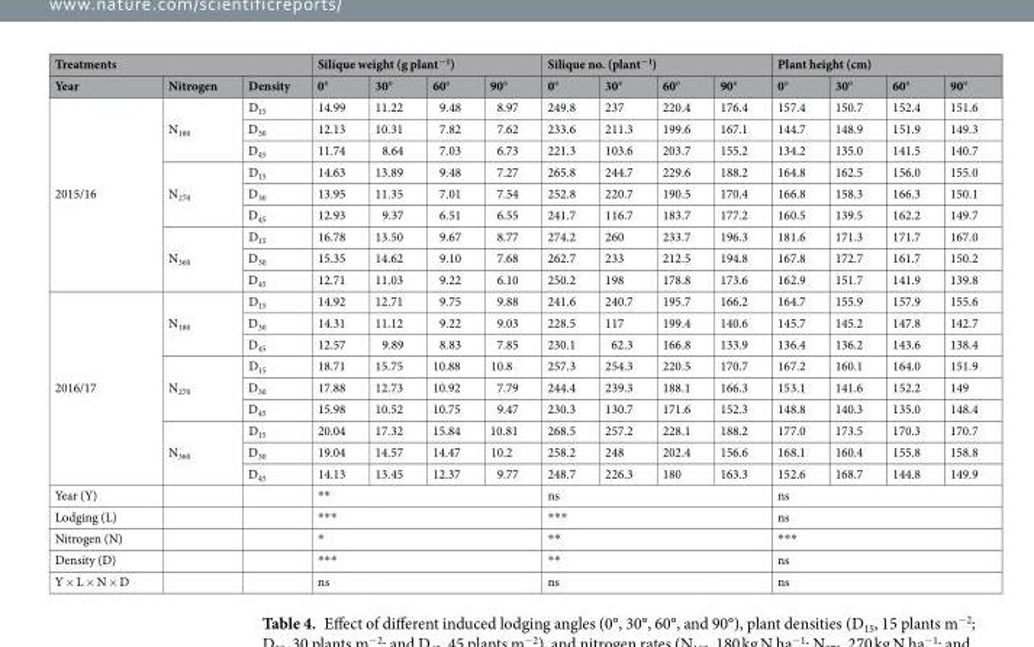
<table><thead><tr><td colspan="3">Treatments</td><td colspan="4">Silique weight (g plant<sup>−1</sup>)</td><td colspan="4">Silique no. (plant<sup>−1</sup>)</td><td colspan="4">Plant height (cm)</td></tr><tr><td>Year</td><td>Nitrogen</td><td>Density</td><td>0°</td><td>30°</td><td>60°</td><td>90°</td><td>0°</td><td>30°</td><td>60°</td><td>90°</td><td>0°</td><td>30°</td><td>60°</td><td>90°</td></tr></thead><tbody><tr><td rowspan="9">2015/16</td><td rowspan="3">N<sub>180</sub></td><td>D<sub>15</sub></td><td>14.99</td><td>11.22</td><td>9.48</td><td>8.97</td><td>249.8</td><td>237</td><td>220.4</td><td>176.4</td><td>157.4</td><td>150.7</td><td>152.4</td><td>151.6</td></tr><tr><td>D<sub>30</sub></td><td>12.13</td><td>10.31</td><td>7.82</td><td>7.62</td><td>233.6</td><td>211.3</td><td>199.6</td><td>167.1</td><td>144.7</td><td>148.9</td><td>151.9</td><td>149.3</td></tr><tr><td>D<sub>45</sub></td><td>11.74</td><td>8.64</td><td>7.03</td><td>6.73</td><td>221.3</td><td>103.6</td><td>203.7</td><td>155.2</td><td>134.2</td><td>135.0</td><td>141.5</td><td>140.7</td></tr><tr><td rowspan="3">N<sub>270</sub></td><td>D<sub>15</sub></td><td>14.63</td><td>13.89</td><td>9.48</td><td>7.27</td><td>265.8</td><td>244.7</td><td>229.6</td><td>188.2</td><td>164.8</td><td>162.5</td><td>156.0</td><td>155.0</td></tr><tr><td>D<sub>30</sub></td><td>13.95</td><td>11.35</td><td>7.01</td><td>7.54</td><td>252.8</td><td>220.7</td><td>190.5</td><td>170.4</td><td>166.8</td><td>158.3</td><td>166.3</td><td>150.1</td></tr><tr><td>D<sub>45</sub></td><td>12.93</td><td>9.37</td><td>6.51</td><td>6.55</td><td>241.7</td><td>116.7</td><td>183.7</td><td>177.2</td><td>160.5</td><td>139.5</td><td>162.2</td><td>149.7</td></tr><tr><td rowspan="3">N<sub>360</sub></td><td>D<sub>15</sub></td><td>16.78</td><td>13.50</td><td>9.67</td><td>8.77</td><td>274.2</td><td>260</td><td>233.7</td><td>196.3</td><td>181.6</td><td>171.3</td><td>171.7</td><td>167.0</td></tr><tr><td>D<sub>30</sub></td><td>15.35</td><td>14.62</td><td>9.10</td><td>7.68</td><td>262.7</td><td>233</td><td>212.5</td><td>194.8</td><td>167.8</td><td>172.7</td><td>161.7</td><td>150.2</td></tr><tr><td>D<sub>45</sub></td><td>12.71</td><td>11.03</td><td>9.22</td><td>6.10</td><td>250.2</td><td>198</td><td>178.8</td><td>173.6</td><td>162.9</td><td>151.7</td><td>141.9</td><td>139.8</td></tr><tr><td rowspan="9">2016/17</td><td rowspan="3">N<sub>180</sub></td><td>D<sub>15</sub></td><td>14.92</td><td>12.71</td><td>9.75</td><td>9.88</td><td>241.6</td><td>240.7</td><td>195.7</td><td>166.2</td><td>164.7</td><td>155.9</td><td>157.9</td><td>155.6</td></tr><tr><td>D<sub>30</sub></td><td>14.31</td><td>11.12</td><td>9.22</td><td>9.03</td><td>228.5</td><td>117</td><td>199.4</td><td>140.6</td><td>145.7</td><td>145.2</td><td>147.8</td><td>142.7</td></tr><tr><td>D<sub>45</sub></td><td>12.57</td><td>9.89</td><td>8.83</td><td>7.85</td><td>230.1</td><td>62.3</td><td>166.8</td><td>133.9</td><td>136.4</td><td>136.2</td><td>143.6</td><td>138.4</td></tr><tr><td rowspan="3">N<sub>270</sub></td><td>D<sub>15</sub></td><td>18.71</td><td>15.75</td><td>10.88</td><td>10.8</td><td>257.3</td><td>254.3</td><td>220.5</td><td>170.7</td><td>167.2</td><td>160.1</td><td>164.0</td><td>151.9</td></tr><tr><td>D<sub>30</sub></td><td>17.88</td><td>12.73</td><td>10.92</td><td>7.79</td><td>244.4</td><td>239.3</td><td>188.1</td><td>166.3</td><td>153.1</td><td>141.6</td><td>152.2</td><td>149</td></tr><tr><td>D<sub>45</sub></td><td>15.98</td><td>10.52</td><td>10.75</td><td>9.47</td><td>230.3</td><td>130.7</td><td>171.6</td><td>152.3</td><td>148.8</td><td>140.3</td><td>135.0</td><td>148.4</td></tr><tr><td rowspan="3">N<sub>360</sub></td><td>D<sub>15</sub></td><td>20.04</td><td>17.32</td><td>15.84</td><td>10.81</td><td>268.5</td><td>257.2</td><td>228.1</td><td>188.2</td><td>177.0</td><td>173.5</td><td>170.3</td><td>170.7</td></tr><tr><td>D<sub>30</sub></td><td>19.04</td><td>14.57</td><td>14.47</td><td>10.2</td><td>258.2</td><td>248</td><td>202.4</td><td>156.6</td><td>168.1</td><td>160.4</td><td>155.8</td><td>158.8</td></tr><tr><td>D<sub>45</sub></td><td>14.13</td><td>13.45</td><td>12.37</td><td>9.77</td><td>248.7</td><td>226.3</td><td>180</td><td>163.3</td><td>152.6</td><td>168.7</td><td>144.8</td><td>149.9</td></tr><tr><td>Year (Y)</td><td></td><td></td><td colspan="4">**</td><td colspan="4">ns</td><td colspan="4">ns</td></tr><tr><td>Lodging (L)</td><td></td><td></td><td colspan="4">***</td><td colspan="4">***</td><td colspan="4">ns</td></tr><tr><td>Nitrogen (N)</td><td></td><td></td><td colspan="4">*</td><td colspan="4">**</td><td colspan="4">***</td></tr><tr><td>Density (D)</td><td></td><td></td><td colspan="4">***</td><td colspan="4">**</td><td colspan="4">ns</td></tr><tr><td>Y × L × N × D</td><td></td><td></td><td colspan="4">ns</td><td colspan="4">ns</td><td colspan="4">ns</td></tr></tbody></table>